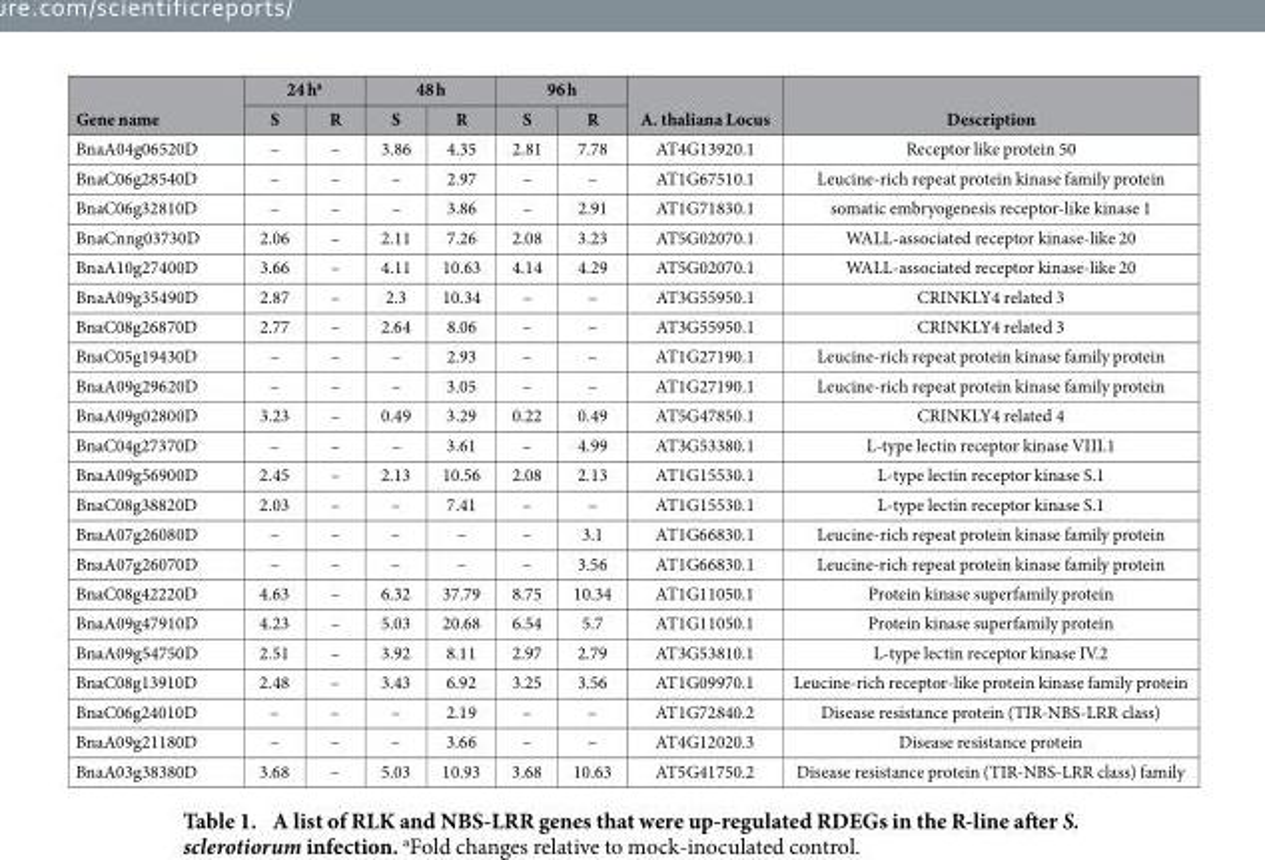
<table><thead><tr><td rowspan="2">Gene name</td><td colspan="2">24 h<sup>a</sup></td><td colspan="2">48 h</td><td colspan="2">96 h</td><td rowspan="2">A. thaliana Locus</td><td rowspan="2">Description</td></tr><tr><td>S</td><td>R</td><td>S</td><td>R</td><td>S</td><td>R</td></tr></thead><tbody><tr><td>BnaA04g06520D</td><td>–</td><td>–</td><td>3.86</td><td>4.35</td><td>2.81</td><td>7.78</td><td>AT4G13920.1</td><td>Receptor like protein 50</td></tr><tr><td>BnaC06g28540D</td><td>–</td><td>–</td><td>–</td><td>2.97</td><td>–</td><td>–</td><td>AT1G67510.1</td><td>Leucine-rich repeat protein kinase family protein</td></tr><tr><td>BnaC06g32810D</td><td>–</td><td>–</td><td>–</td><td>3.86</td><td>–</td><td>2.91</td><td>AT1G71830.1</td><td>somatic embryogenesis receptor-like kinase 1</td></tr><tr><td>BnaCnng03730D</td><td>2.06</td><td>–</td><td>2.11</td><td>7.26</td><td>2.08</td><td>3.23</td><td>AT5G02070.1</td><td>WALL-associated receptor kinase-like 20</td></tr><tr><td>BnaA10g27400D</td><td>3.66</td><td>–</td><td>4.11</td><td>10.63</td><td>4.14</td><td>4.29</td><td>AT5G02070.1</td><td>WALL-associated receptor kinase-like 20</td></tr><tr><td>BnaA09g35490D</td><td>2.87</td><td>–</td><td>2.3</td><td>10.34</td><td>–</td><td>–</td><td>AT3G55950.1</td><td>CRINKLY4 related 3</td></tr><tr><td>BnaC08g26870D</td><td>2.77</td><td>–</td><td>2.64</td><td>8.06</td><td>–</td><td>–</td><td>AT3G55950.1</td><td>CRINKLY4 related 3</td></tr><tr><td>BnaC05g19430D</td><td>–</td><td>–</td><td>–</td><td>2.93</td><td>–</td><td>–</td><td>AT1G27190.1</td><td>Leucine-rich repeat protein kinase family protein</td></tr><tr><td>BnaA09g29620D</td><td>–</td><td>–</td><td>–</td><td>3.05</td><td>–</td><td>–</td><td>AT1G27190.1</td><td>Leucine-rich repeat protein kinase family protein</td></tr><tr><td>BnaA09g02800D</td><td>3.23</td><td>–</td><td>0.49</td><td>3.29</td><td>0.22</td><td>0.49</td><td>AT5G47850.1</td><td>CRINKLY4 related 4</td></tr><tr><td>BnaC04g27370D</td><td>–</td><td>–</td><td>–</td><td>3.61</td><td>–</td><td>4.99</td><td>AT3G53380.1</td><td>L-type lectin receptor kinase VIII.1</td></tr><tr><td>BnaA09g56900D</td><td>2.45</td><td>–</td><td>2.13</td><td>10.56</td><td>2.08</td><td>2.13</td><td>AT1G15530.1</td><td>L-type lectin receptor kinase S.1</td></tr><tr><td>BnaC08g38820D</td><td>2.03</td><td>–</td><td>–</td><td>7.41</td><td>–</td><td>–</td><td>AT1G15530.1</td><td>L-type lectin receptor kinase S.1</td></tr><tr><td>BnaA07g26080D</td><td>–</td><td>–</td><td>–</td><td>–</td><td>–</td><td>3.1</td><td>AT1G66830.1</td><td>Leucine-rich repeat protein kinase family protein</td></tr><tr><td>BnaA07g26070D</td><td>–</td><td>–</td><td>–</td><td>–</td><td>–</td><td>3.56</td><td>AT1G66830.1</td><td>Leucine-rich repeat protein kinase family protein</td></tr><tr><td>BnaC08g42220D</td><td>4.63</td><td>–</td><td>6.32</td><td>37.79</td><td>8.75</td><td>10.34</td><td>AT1G11050.1</td><td>Protein kinase superfamily protein</td></tr><tr><td>BnaA09g47910D</td><td>4.23</td><td>–</td><td>5.03</td><td>20.68</td><td>6.54</td><td>5.7</td><td>AT1G11050.1</td><td>Protein kinase superfamily protein</td></tr><tr><td>BnaA09g54750D</td><td>2.51</td><td>–</td><td>3.92</td><td>8.11</td><td>2.97</td><td>2.79</td><td>AT3G53810.1</td><td>L-type lectin receptor kinase IV.2</td></tr><tr><td>BnaC08g13910D</td><td>2.48</td><td>–</td><td>3.43</td><td>6.92</td><td>3.25</td><td>3.56</td><td>AT1G09970.1</td><td>Leucine-rich receptor-like protein kinase family protein</td></tr><tr><td>BnaC06g24010D</td><td>–</td><td>–</td><td>–</td><td>2.19</td><td>–</td><td>–</td><td>AT1G72840.2</td><td>Disease resistance protein (TIR-NBS-LRR class)</td></tr><tr><td>BnaA09g21180D</td><td>–</td><td>–</td><td>–</td><td>3.66</td><td>–</td><td>–</td><td>AT4G12020.3</td><td>Disease resistance protein</td></tr><tr><td>BnaA03g38380D</td><td>3.68</td><td>–</td><td>5.03</td><td>10.93</td><td>3.68</td><td>10.63</td><td>AT5G41750.2</td><td>Disease resistance protein (TIR-NBS-LRR class) family</td></tr></tbody></table>